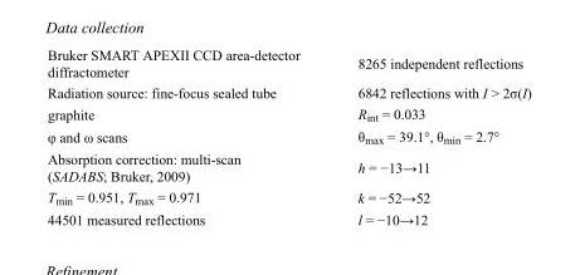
<table><tbody><tr><td>Bruker SMART APEXII CCD area-detector diffractometer</td><td>8265 independent reflections</td></tr><tr><td>Radiation source: fine-focus sealed tube</td><td>6842 reflections with I &gt; 2σ(I)</td></tr><tr><td>graphite</td><td>R<sub>int</sub> = 0.033</td></tr><tr><td>φ and ω scans</td><td>θ<sub>max</sub> = 39.1°, θ<sub>min</sub> = 2.7°</td></tr><tr><td>Absorption correction: multi-scan (SADABS; Bruker, 2009)</td><td>h = −13→11</td></tr><tr><td>T<sub>min</sub> = 0.951, T<sub>max</sub> = 0.971</td><td>k = −52→52</td></tr><tr><td>44501 measured reflections</td><td>l = −10→12</td></tr></tbody></table>